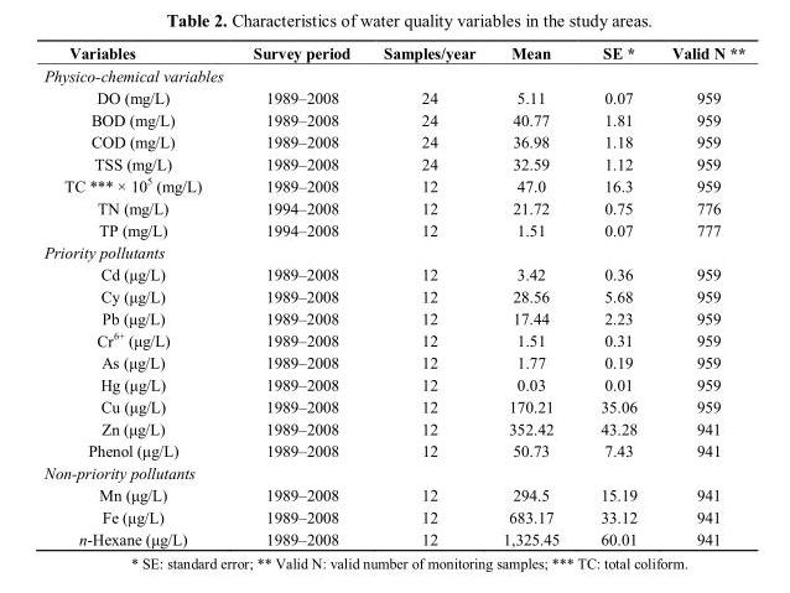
<table><thead><tr><td>Variables</td><td>Survey period</td><td>Samples/year</td><td>Mean</td><td>SE *</td><td>Valid N **</td></tr></thead><tbody><tr><td colspan="6">Physico-chemical variables</td></tr><tr><td>DO (mg/L)</td><td>1989–2008</td><td>24</td><td>5.11</td><td>0.07</td><td>959</td></tr><tr><td>BOD (mg/L)</td><td>1989–2008</td><td>24</td><td>40.77</td><td>1.81</td><td>959</td></tr><tr><td>COD (mg/L)</td><td>1989–2008</td><td>24</td><td>36.98</td><td>1.18</td><td>959</td></tr><tr><td>TSS (mg/L)</td><td>1989–2008</td><td>24</td><td>32.59</td><td>1.12</td><td>959</td></tr><tr><td>TC *** × 10<sup>5</sup> (mg/L)</td><td>1989–2008</td><td>12</td><td>47.0</td><td>16.3</td><td>959</td></tr><tr><td>TN (mg/L)</td><td>1994–2008</td><td>12</td><td>21.72</td><td>0.75</td><td>776</td></tr><tr><td>TP (mg/L)</td><td>1994–2008</td><td>12</td><td>1.51</td><td>0.07</td><td>777</td></tr><tr><td colspan="6">Priority pollutants</td></tr><tr><td>Cd (μg/L)</td><td>1989–2008</td><td>12</td><td>3.42</td><td>0.36</td><td>959</td></tr><tr><td>Cy (μg/L)</td><td>1989–2008</td><td>12</td><td>28.56</td><td>5.68</td><td>959</td></tr><tr><td>Pb (μg/L)</td><td>1989–2008</td><td>12</td><td>17.44</td><td>2.23</td><td>959</td></tr><tr><td>Cr<sup>6+</sup> (μg/L)</td><td>1989–2008</td><td>12</td><td>1.51</td><td>0.31</td><td>959</td></tr><tr><td>As (μg/L)</td><td>1989–2008</td><td>12</td><td>1.77</td><td>0.19</td><td>959</td></tr><tr><td>Hg (μg/L)</td><td>1989–2008</td><td>12</td><td>0.03</td><td>0.01</td><td>959</td></tr><tr><td>Cu (μg/L)</td><td>1989–2008</td><td>12</td><td>170.21</td><td>35.06</td><td>959</td></tr><tr><td>Zn (μg/L)</td><td>1989–2008</td><td>12</td><td>352.42</td><td>43.28</td><td>941</td></tr><tr><td>Phenol (μg/L)</td><td>1989–2008</td><td>12</td><td>50.73</td><td>7.43</td><td>941</td></tr><tr><td colspan="6">Non-priority pollutants</td></tr><tr><td>Mn (μg/L)</td><td>1989–2008</td><td>12</td><td>294.5</td><td>15.19</td><td>941</td></tr><tr><td>Fe (μg/L)</td><td>1989–2008</td><td>12</td><td>683.17</td><td>33.12</td><td>941</td></tr><tr><td>n-Hexane (μg/L)</td><td>1989–2008</td><td>12</td><td>1,325.45</td><td>60.01</td><td>941</td></tr></tbody></table>